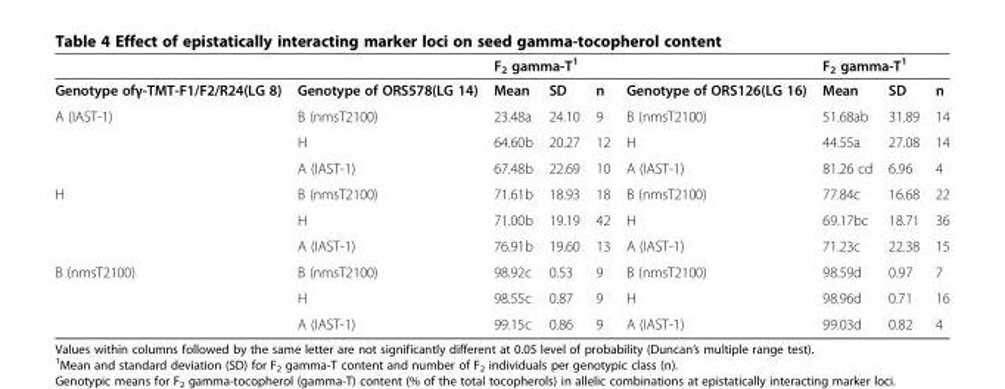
<table><thead><tr><td rowspan="2">Genotype ofγ-TMT-F1/F2/R24(LG 8)</td><td rowspan="2">Genotype of ORS578(LG 14)</td><td colspan="3">F<sub>2</sub> gamma-T<sup>1</sup></td><td rowspan="2">Genotype of ORS126(LG 16)</td><td colspan="3">F<sub>2</sub> gamma-T<sup>1</sup></td></tr><tr><td>Mean</td><td>SD</td><td>n</td><td>Mean</td><td>SD</td><td>n</td></tr></thead><tbody><tr><td rowspan="3">A (IAST-1)</td><td>B (nmsT2100)</td><td>23.48a</td><td>24.10</td><td>9</td><td>B (nmsT2100)</td><td>51.68ab</td><td>31.89</td><td>14</td></tr><tr><td>H</td><td>64.60b</td><td>20.27</td><td>12</td><td>H</td><td>44.55a</td><td>27.08</td><td>14</td></tr><tr><td>A (IAST-1)</td><td>67.48b</td><td>22.69</td><td>10</td><td>A (IAST-1)</td><td>81.26 cd</td><td>6.96</td><td>4</td></tr><tr><td rowspan="3">H</td><td>B (nmsT2100)</td><td>71.61b</td><td>18.93</td><td>18</td><td>B (nmsT2100)</td><td>77.84c</td><td>16.68</td><td>22</td></tr><tr><td>H</td><td>71.00b</td><td>19.19</td><td>42</td><td>H</td><td>69.17bc</td><td>18.71</td><td>36</td></tr><tr><td>A (IAST-1)</td><td>76.91b</td><td>19.60</td><td>13</td><td>A (IAST-1)</td><td>71.23c</td><td>22.38</td><td>15</td></tr><tr><td rowspan="3">B (nmsT2100)</td><td>B (nmsT2100)</td><td>98.92c</td><td>0.53</td><td>9</td><td>B (nmsT2100)</td><td>98.59d</td><td>0.97</td><td>7</td></tr><tr><td>H</td><td>98.55c</td><td>0.87</td><td>9</td><td>H</td><td>98.96d</td><td>0.71</td><td>16</td></tr><tr><td>A (IAST-1)</td><td>99.15c</td><td>0.86</td><td>9</td><td>A (IAST-1)</td><td>99.03d</td><td>0.82</td><td>4</td></tr></tbody></table>